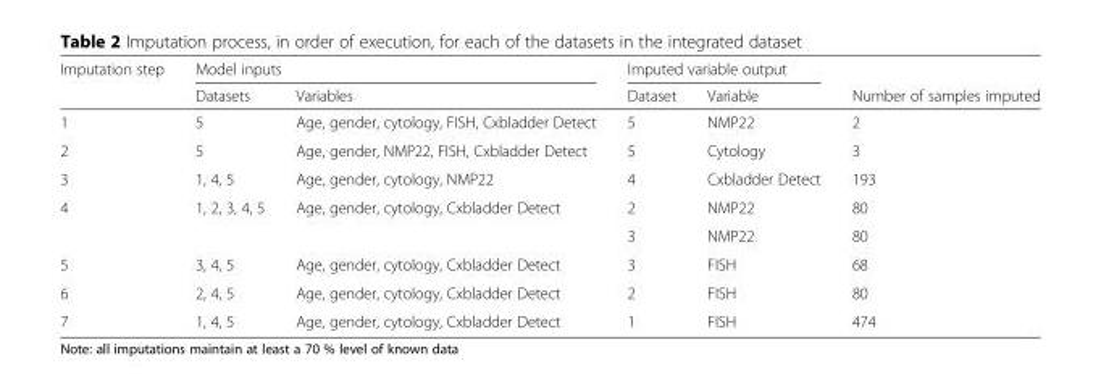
<table><thead><tr><td rowspan="2">Imputation step</td><td colspan="2">Model inputs</td><td colspan="2">Imputed variable output</td><td rowspan="2">Number of samples imputed</td></tr><tr><td>Datasets</td><td>Variables</td><td>Dataset</td><td>Variable</td></tr></thead><tbody><tr><td>1</td><td>5</td><td>Age, gender, cytology, FISH, Cxbladder Detect</td><td>5</td><td>NMP22</td><td>2</td></tr><tr><td>2</td><td>5</td><td>Age, gender, NMP22, FISH, Cxbladder Detect</td><td>5</td><td>Cytology</td><td>3</td></tr><tr><td>3</td><td>1, 4, 5</td><td>Age, gender, cytology, NMP22</td><td>4</td><td>Cxbladder Detect</td><td>193</td></tr><tr><td rowspan="2">4</td><td>1, 2, 3, 4, 5</td><td>Age, gender, cytology, Cxbladder Detect</td><td>2</td><td>NMP22</td><td>80</td></tr><tr><td></td><td></td><td>3</td><td>NMP22</td><td>80</td></tr><tr><td>5</td><td>3, 4, 5</td><td>Age, gender, cytology, Cxbladder Detect</td><td>3</td><td>FISH</td><td>68</td></tr><tr><td>6</td><td>2, 4, 5</td><td>Age, gender, cytology, Cxbladder Detect</td><td>2</td><td>FISH</td><td>80</td></tr><tr><td>7</td><td>1, 4, 5</td><td>Age, gender, cytology, Cxbladder Detect</td><td>1</td><td>FISH</td><td>474</td></tr></tbody></table>